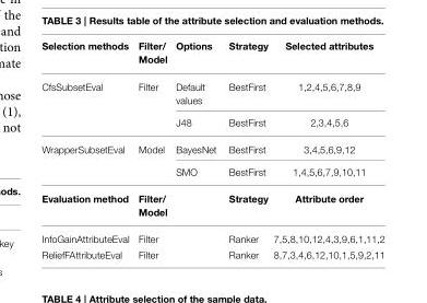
<table><thead><tr><td>Selection methods</td><td>Filter/ Model</td><td>Options</td><td>Strategy</td><td>Selected attributes</td></tr></thead><tbody><tr><td rowspan="2">CfsSubsetEval</td><td>Filter</td><td>Default values</td><td>BestFirst</td><td>1,2,4,5,6,7,8,9</td></tr><tr><td></td><td>J48</td><td>BestFirst</td><td>2,3,4,5,6</td></tr><tr><td rowspan="2">WrapperSubsetEval</td><td>Model</td><td>BayesNet</td><td>BestFirst</td><td>3,4,5,6,9,12</td></tr><tr><td></td><td>SMO</td><td>BestFirst</td><td>1,4,5,6,7,9,10,11</td></tr><tr><td>Evaluation method</td><td>Filter/ Model</td><td></td><td>Strategy</td><td>Attribute order</td></tr><tr><td>InfoGainAttributeEval</td><td>Filter</td><td></td><td>Ranker</td><td>7,5,8,10,12,4,3,9,6,1,11,2</td></tr><tr><td>ReliefFAttributeEval</td><td>Filter</td><td></td><td>Ranker</td><td>8,7,3,4,6,12,10,1,5,9,2,11</td></tr></tbody></table>